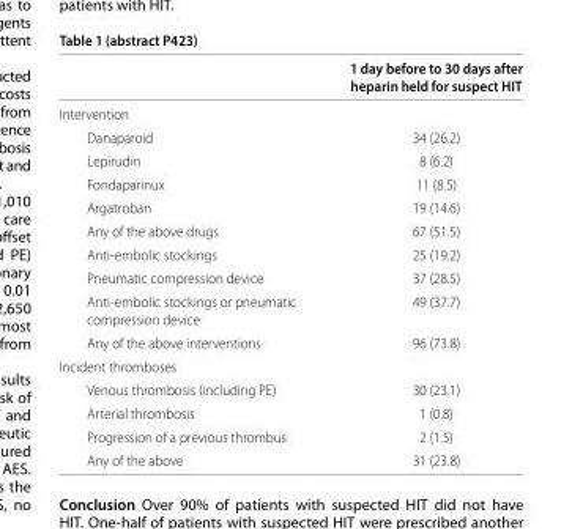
<table><thead><tr><td></td><td>1 day before to 30 days after heparin held for suspect HIT</td></tr></thead><tbody><tr><td colspan="2">Intervention</td></tr><tr><td>Danaparoid</td><td>34 (26.2)</td></tr><tr><td>Lepirudin</td><td>8 (6.2)</td></tr><tr><td>Fondaparinux</td><td>11 (8.5)</td></tr><tr><td>Argatroban</td><td>19 (14.6)</td></tr><tr><td>Any of the above drugs</td><td>67 (51.5)</td></tr><tr><td>Anti-embolic stockings</td><td>25 (19.2)</td></tr><tr><td>Pneumatic compression device</td><td>37 (28.5)</td></tr><tr><td>Anti-embolic stockings or pneumatic compression device</td><td>49 (37.7)</td></tr><tr><td>Any of the above interventions</td><td>96 (73.8)</td></tr><tr><td colspan="2">Incident thromboses</td></tr><tr><td>Venous thrombosis (including PE)</td><td>30 (23.1)</td></tr><tr><td>Arterial thrombosis</td><td>1 (0.8)</td></tr><tr><td>Progression of a previous thrombus</td><td>2 (1.5)</td></tr><tr><td>Any of the above</td><td>31 (23.8)</td></tr></tbody></table>